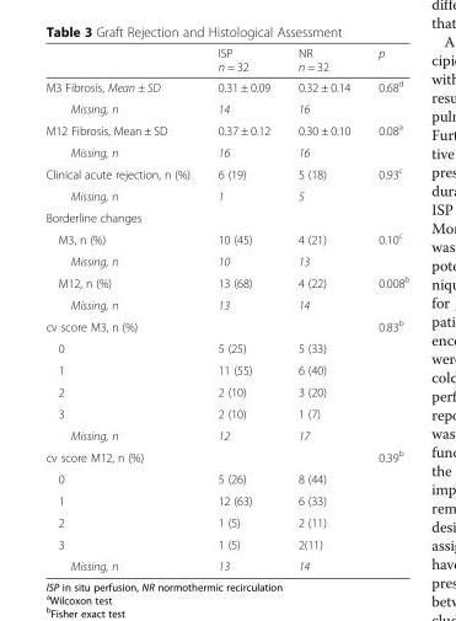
<table><thead><tr><td></td><td>ISP n = 32</td><td>NR n = 32</td><td>p</td></tr></thead><tbody><tr><td>M3 Fibrosis, Mean ± SD</td><td>0.31 ± 0.09</td><td>0.32 ± 0.14</td><td>0.68<sup>d</sup></td></tr><tr><td>Missing, n</td><td>14</td><td>16</td><td></td></tr><tr><td>M12 Fibrosis, Mean ± SD</td><td>0.37 ± 0.12</td><td>0.30 ± 0.10</td><td>0.08<sup>a</sup></td></tr><tr><td>Missing, n</td><td>16</td><td>16</td><td></td></tr><tr><td>Clinical acute rejection, n (%)</td><td>6 (19)</td><td>5 (18)</td><td>0.93<sup>c</sup></td></tr><tr><td>Missing, n</td><td>1</td><td>5</td><td></td></tr><tr><td colspan="4">Borderline changes</td></tr><tr><td>M3, n (%)</td><td>10 (45)</td><td>4 (21)</td><td>0.10<sup>c</sup></td></tr><tr><td>Missing, n</td><td>10</td><td>13</td><td></td></tr><tr><td>M12, n (%)</td><td>13 (68)</td><td>4 (22)</td><td>0.008<sup>b</sup></td></tr><tr><td>Missing, n</td><td>13</td><td>14</td><td></td></tr><tr><td>cv score M3, n (%)</td><td></td><td></td><td>0.83<sup>b</sup></td></tr><tr><td>0</td><td>5 (25)</td><td>5 (33)</td><td></td></tr><tr><td>1</td><td>11 (55)</td><td>6 (40)</td><td></td></tr><tr><td>2</td><td>2 (10)</td><td>3 (20)</td><td></td></tr><tr><td>3</td><td>2 (10)</td><td>1 (7)</td><td></td></tr><tr><td>Missing, n</td><td>12</td><td>17</td><td></td></tr><tr><td>cv score M12, n (%)</td><td></td><td></td><td>0.39<sup>b</sup></td></tr><tr><td>0</td><td>5 (26)</td><td>8 (44)</td><td></td></tr><tr><td>1</td><td>12 (63)</td><td>6 (33)</td><td></td></tr><tr><td>2</td><td>1 (5)</td><td>2 (11)</td><td></td></tr><tr><td>3</td><td>1 (5)</td><td>2(11)</td><td></td></tr><tr><td>Missing, n</td><td>13</td><td>14</td><td></td></tr></tbody></table>